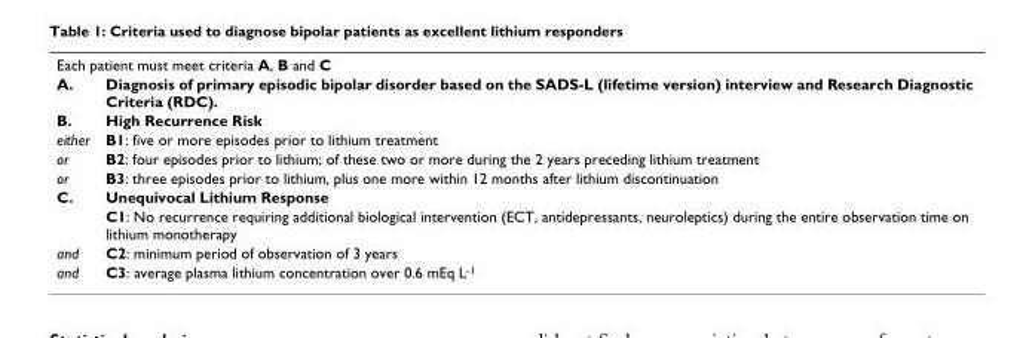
<table><tbody><tr><td colspan="2">Each patient must meet criteria A, B and C</td></tr><tr><td>A.</td><td>Diagnosis of primary episodic bipolar disorder based on the SADS-L (lifetime version) interview and Research Diagnostic Criteria (RDC).</td></tr><tr><td>B.</td><td>High Recurrence Risk</td></tr><tr><td>either</td><td>B1: five or more episodes prior to lithium treatment</td></tr><tr><td>or</td><td>B2: four episodes prior to lithium; of these two or more during the 2 years preceding lithium treatment</td></tr><tr><td>or</td><td>B3: three episodes prior to lithium, plus one more within 12 months after lithium discontinuation</td></tr><tr><td rowspan="2">C.</td><td>Unequivocal Lithium Response</td></tr><tr><td>C1: No recurrence requiring additional biological intervention (ECT, antidepressants, neuroleptics) during the entire observation time on lithium monotherapy</td></tr><tr><td>and</td><td>C2: minimum period of observation of 3 years</td></tr><tr><td>and</td><td>C3: average plasma lithium concentration over 0.6 mEq L<sup>-1</sup></td></tr></tbody></table>